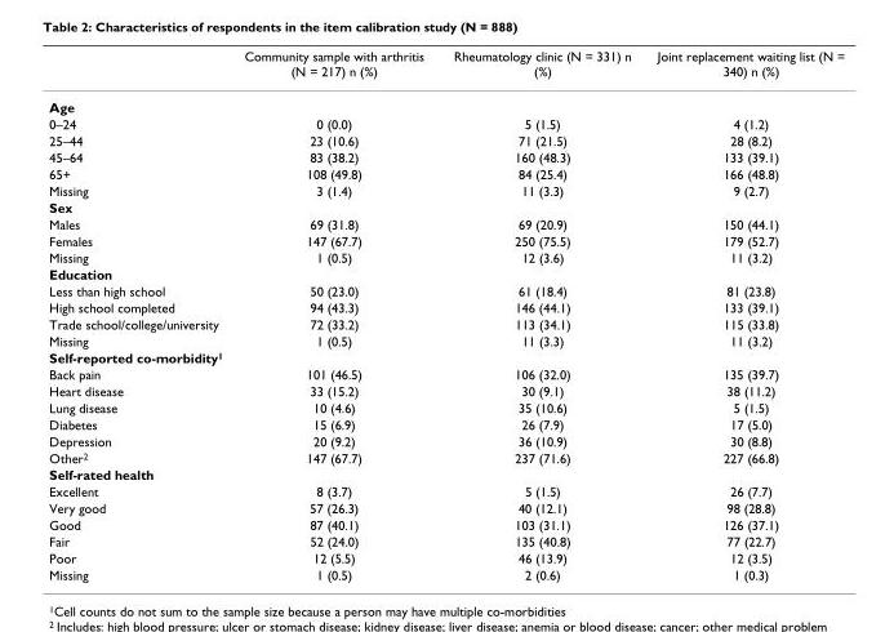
<table><thead><tr><td></td><td>Community sample with arthritis (N = 217) n (%)</td><td>Rheumatology clinic (N = 331) n (%)</td><td>Joint replacement waiting list (N = 340) n (%)</td></tr></thead><tbody><tr><td colspan="4">Age</td></tr><tr><td>0–24</td><td>0 (0.0)</td><td>5 (1.5)</td><td>4 (1.2)</td></tr><tr><td>25–44</td><td>23 (10.6)</td><td>71 (21.5)</td><td>28 (8.2)</td></tr><tr><td>45–64</td><td>83 (38.2)</td><td>160 (48.3)</td><td>133 (39.1)</td></tr><tr><td>65+</td><td>108 (49.8)</td><td>84 (25.4)</td><td>166 (48.8)</td></tr><tr><td>Missing</td><td>3 (1.4)</td><td>11 (3.3)</td><td>9 (2.7)</td></tr><tr><td colspan="4">Sex</td></tr><tr><td>Males</td><td>69 (31.8)</td><td>69 (20.9)</td><td>150 (44.1)</td></tr><tr><td>Females</td><td>147 (67.7)</td><td>250 (75.5)</td><td>179 (52.7)</td></tr><tr><td>Missing</td><td>1 (0.5)</td><td>12 (3.6)</td><td>11 (3.2)</td></tr><tr><td colspan="4">Education</td></tr><tr><td>Less than high school</td><td>50 (23.0)</td><td>61 (18.4)</td><td>81 (23.8)</td></tr><tr><td>High school completed</td><td>94 (43.3)</td><td>146 (44.1)</td><td>133 (39.1)</td></tr><tr><td>Trade school/college/university</td><td>72 (33.2)</td><td>113 (34.1)</td><td>115 (33.8)</td></tr><tr><td>Missing</td><td>1 (0.5)</td><td>11 (3.3)</td><td>11 (3.2)</td></tr><tr><td colspan="4">Self-reported co-morbidity<sup>1</sup></td></tr><tr><td>Back pain</td><td>101 (46.5)</td><td>106 (32.0)</td><td>135 (39.7)</td></tr><tr><td>Heart disease</td><td>33 (15.2)</td><td>30 (9.1)</td><td>38 (11.2)</td></tr><tr><td>Lung disease</td><td>10 (4.6)</td><td>35 (10.6)</td><td>5 (1.5)</td></tr><tr><td>Diabetes</td><td>15 (6.9)</td><td>26 (7.9)</td><td>17 (5.0)</td></tr><tr><td>Depression</td><td>20 (9.2)</td><td>36 (10.9)</td><td>30 (8.8)</td></tr><tr><td>Other<sup>2</sup></td><td>147 (67.7)</td><td>237 (71.6)</td><td>227 (66.8)</td></tr><tr><td colspan="4">Self-rated health</td></tr><tr><td>Excellent</td><td>8 (3.7)</td><td>5 (1.5)</td><td>26 (7.7)</td></tr><tr><td>Very good</td><td>57 (26.3)</td><td>40 (12.1)</td><td>98 (28.8)</td></tr><tr><td>Good</td><td>87 (40.1)</td><td>103 (31.1)</td><td>126 (37.1)</td></tr><tr><td>Fair</td><td>52 (24.0)</td><td>135 (40.8)</td><td>77 (22.7)</td></tr><tr><td>Poor</td><td>12 (5.5)</td><td>46 (13.9)</td><td>12 (3.5)</td></tr><tr><td>Missing</td><td>1 (0.5)</td><td>2 (0.6)</td><td>1 (0.3)</td></tr></tbody></table>